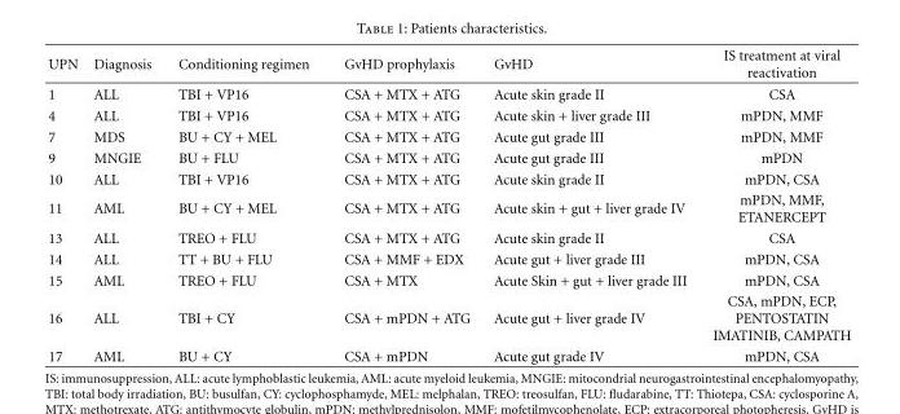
<table><thead><tr><td>UPN</td><td>Diagnosis</td><td>Conditioning regimen</td><td>GvHD prophylaxis</td><td>GvHD</td><td>IS treatment at viral reactivation</td></tr></thead><tbody><tr><td>1</td><td>ALL</td><td>TBI + VP16</td><td>CSA + MTX + ATG</td><td>Acute skin grade II</td><td>CSA</td></tr><tr><td>4</td><td>ALL</td><td>TBI + VP16</td><td>CSA + MTX + ATG</td><td>Acute skin + liver grade III</td><td>mPDN, MMF</td></tr><tr><td>7</td><td>MDS</td><td>BU + CY + MEL</td><td>CSA + MTX + ATG</td><td>Acute gut grade III</td><td>mPDN, MMF</td></tr><tr><td>9</td><td>MNGIE</td><td>BU + FLU</td><td>CSA + MTX + ATG</td><td>Acute gut grade III</td><td>mPDN</td></tr><tr><td>10</td><td>ALL</td><td>TBI + VP16</td><td>CSA + MTX + ATG</td><td>Acute skin grade II</td><td>mPDN, CSA</td></tr><tr><td>11</td><td>AML</td><td>BU + CY + MEL</td><td>CSA + MTX + ATG</td><td>Acute skin + gut + liver grade IV</td><td>mPDN, MMF, ETANERCEPT</td></tr><tr><td>13</td><td>ALL</td><td>TREO + FLU</td><td>CSA + MTX + ATG</td><td>Acute skin grade II</td><td>CSA</td></tr><tr><td>14</td><td>ALL</td><td>TT + BU + FLU</td><td>CSA + MMF + EDX</td><td>Acute gut + liver grade III</td><td>mPDN, CSA</td></tr><tr><td>15</td><td>AML</td><td>TREO + FLU</td><td>CSA + MTX</td><td>Acute Skin + gut + liver grade III</td><td>mPDN, CSA</td></tr><tr><td>16</td><td>ALL</td><td>TBI + CY</td><td>CSA + mPDN + ATG</td><td>Acute gut + liver grade IV</td><td>CSA, mPDN, ECP, PENTOSTATIN IMATINIB, CAMPATH</td></tr><tr><td>17</td><td>AML</td><td>BU + CY</td><td>CSA + mPDN</td><td>Acute gut grade IV</td><td>mPDN, CSA</td></tr></tbody></table>